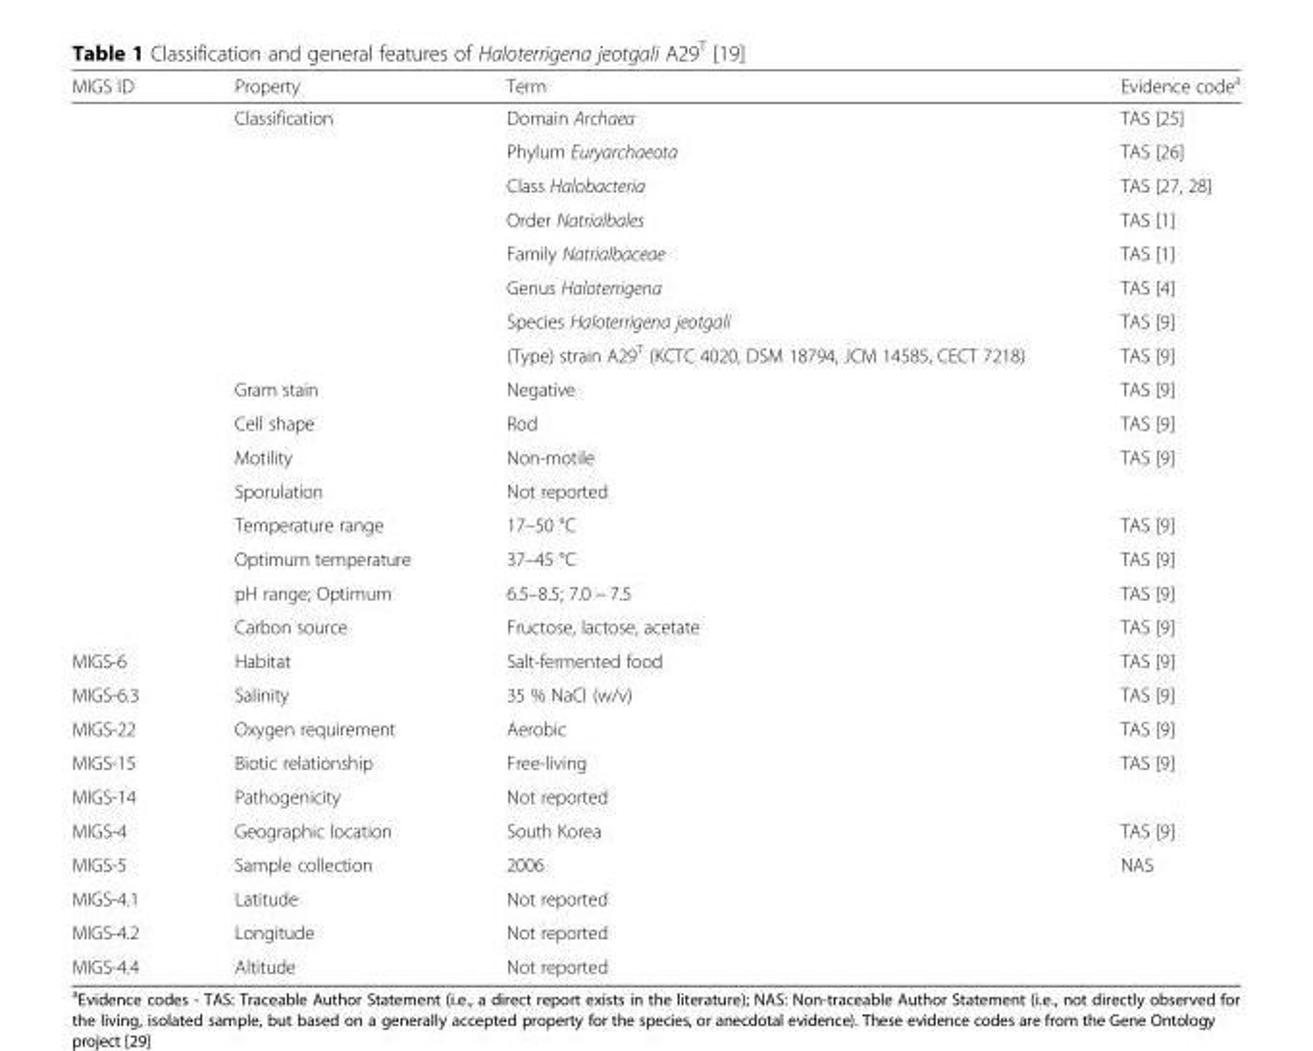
<table><thead><tr><td>MIGS ID</td><td>Property</td><td>Term</td><td>Evidence code<sup>a</sup></td></tr></thead><tbody><tr><td></td><td rowspan="8">Classification</td><td>Domain Archaea</td><td>TAS [25]</td></tr><tr><td></td><td>Phylum Euryarchaeota</td><td>TAS [26]</td></tr><tr><td></td><td>Class Halobacteria</td><td>TAS [27, 28]</td></tr><tr><td></td><td>Order Natrialbales</td><td>TAS [1]</td></tr><tr><td></td><td>Family Natrialbaceae</td><td>TAS [1]</td></tr><tr><td></td><td>Genus Haloterrigena</td><td>TAS [4]</td></tr><tr><td></td><td>Species Haloterrigena jeotgali</td><td>TAS [9]</td></tr><tr><td></td><td>(Type) strain A29<sup>T</sup> (KCTC 4020, DSM 18794, JCM 14585, CECT 7218)</td><td>TAS [9]</td></tr><tr><td></td><td>Gram stain</td><td>Negative</td><td>TAS [9]</td></tr><tr><td></td><td>Cell shape</td><td>Rod</td><td>TAS [9]</td></tr><tr><td></td><td>Motility</td><td>Non-motile</td><td>TAS [9]</td></tr><tr><td></td><td>Sporulation</td><td>Not reported</td><td></td></tr><tr><td></td><td>Temperature range</td><td>17–50 °C</td><td>TAS [9]</td></tr><tr><td></td><td>Optimum temperature</td><td>37–45 °C</td><td>TAS [9]</td></tr><tr><td></td><td>pH range; Optimum</td><td>6.5–8.5; 7.0 − 7.5</td><td>TAS [9]</td></tr><tr><td></td><td>Carbon source</td><td>Fructose, lactose, acetate</td><td>TAS [9]</td></tr><tr><td>MIGS-6</td><td>Habitat</td><td>Salt-fermented food</td><td>TAS [9]</td></tr><tr><td>MIGS-6.3</td><td>Salinity</td><td>35 % NaCl (w/v)</td><td>TAS [9]</td></tr><tr><td>MIGS-22</td><td>Oxygen requirement</td><td>Aerobic</td><td>TAS [9]</td></tr><tr><td>MIGS-15</td><td>Biotic relationship</td><td>Free-living</td><td>TAS [9]</td></tr><tr><td>MIGS-14</td><td>Pathogenicity</td><td>Not reported</td><td></td></tr><tr><td>MIGS-4</td><td>Geographic location</td><td>South Korea</td><td>TAS [9]</td></tr><tr><td>MIGS-5</td><td>Sample collection</td><td>2006</td><td>NAS</td></tr><tr><td>MIGS-4.1</td><td>Latitude</td><td>Not reported</td><td></td></tr><tr><td>MIGS-4.2</td><td>Longitude</td><td>Not reported</td><td></td></tr><tr><td>MIGS-4.4</td><td>Altitude</td><td>Not reported</td><td></td></tr></tbody></table>